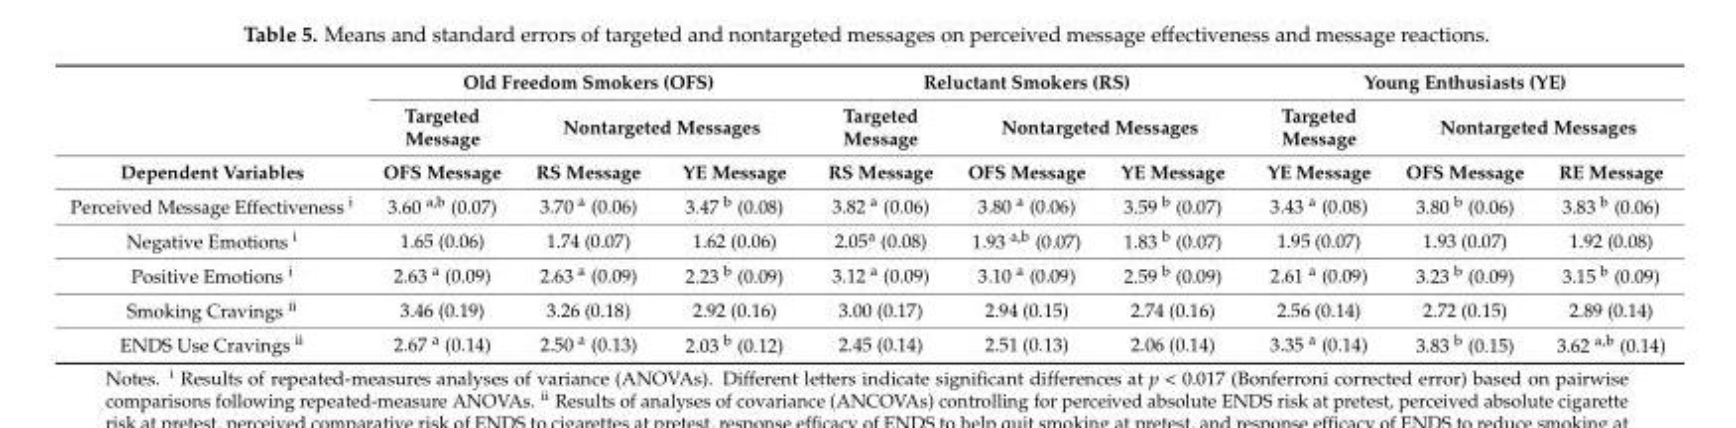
<table><thead><tr><td rowspan="3">Dependent Variables</td><td colspan="3">Old Freedom Smokers (OFS)</td><td colspan="3">Reluctant Smokers (RS)</td><td colspan="3">Young Enthusiasts (YE)</td></tr><tr><td rowspan="2">Targeted Message OFS Message</td><td colspan="2">Nontargeted Messages</td><td rowspan="2">Targeted Message RS Message</td><td colspan="2">Nontargeted Messages</td><td rowspan="2">Targeted Message YE Message</td><td colspan="2">Nontargeted Messages</td></tr><tr><td>RS Message</td><td>YE Message</td><td>OFS Message</td><td>YE Message</td><td>OFS Message</td><td>RE Message</td></tr></thead><tbody><tr><td>Perceived Message Effectiveness <sup>i</sup></td><td>3.60 <sup>a,b</sup> (0.07)</td><td>3.70 <sup>a</sup> (0.06)</td><td>3.47 <sup>b</sup> (0.08)</td><td>3.82 <sup>a</sup> (0.06)</td><td>3.80 <sup>a</sup> (0.06)</td><td>3.59 <sup>b</sup> (0.07)</td><td>3.43 <sup>a</sup> (0.08)</td><td>3.80 <sup>b</sup> (0.06)</td><td>3.83 <sup>b</sup> (0.06)</td></tr><tr><td>Negative Emotions <sup>i</sup></td><td>1.65 (0.06)</td><td>1.74 (0.07)</td><td>1.62 (0.06)</td><td>2.05<sup>a</sup> (0.08)</td><td>1.93 <sup>a,b</sup> (0.07)</td><td>1.83 <sup>b</sup> (0.07)</td><td>1.95 (0.07)</td><td>1.93 (0.07)</td><td>1.92 (0.08)</td></tr><tr><td>Positive Emotions <sup>i</sup></td><td>2.63 <sup>a</sup> (0.09)</td><td>2.63 <sup>a</sup> (0.09)</td><td>2.23 <sup>b</sup> (0.09)</td><td>3.12 <sup>a</sup> (0.09)</td><td>3.10 <sup>a</sup> (0.09)</td><td>2.59 <sup>b</sup> (0.09)</td><td>2.61 <sup>a</sup> (0.09)</td><td>3.23 <sup>b</sup> (0.09)</td><td>3.15 <sup>b</sup> (0.09)</td></tr><tr><td>Smoking Cravings <sup>ii</sup></td><td>3.46 (0.19)</td><td>3.26 (0.18)</td><td>2.92 (0.16)</td><td>3.00 (0.17)</td><td>2.94 (0.15)</td><td>2.74 (0.16)</td><td>2.56 (0.14)</td><td>2.72 (0.15)</td><td>2.89 (0.14)</td></tr><tr><td>ENDS Use Cravings <sup>ii</sup></td><td>2.67 <sup>a</sup> (0.14)</td><td>2.50 <sup>a</sup> (0.13)</td><td>2.03 <sup>b</sup> (0.12)</td><td>2.45 (0.14)</td><td>2.51 (0.13)</td><td>2.06 (0.14)</td><td>3.35 <sup>a</sup> (0.14)</td><td>3.83 <sup>b</sup> (0.15)</td><td>3.62 <sup>a,b</sup> (0.14)</td></tr></tbody></table>